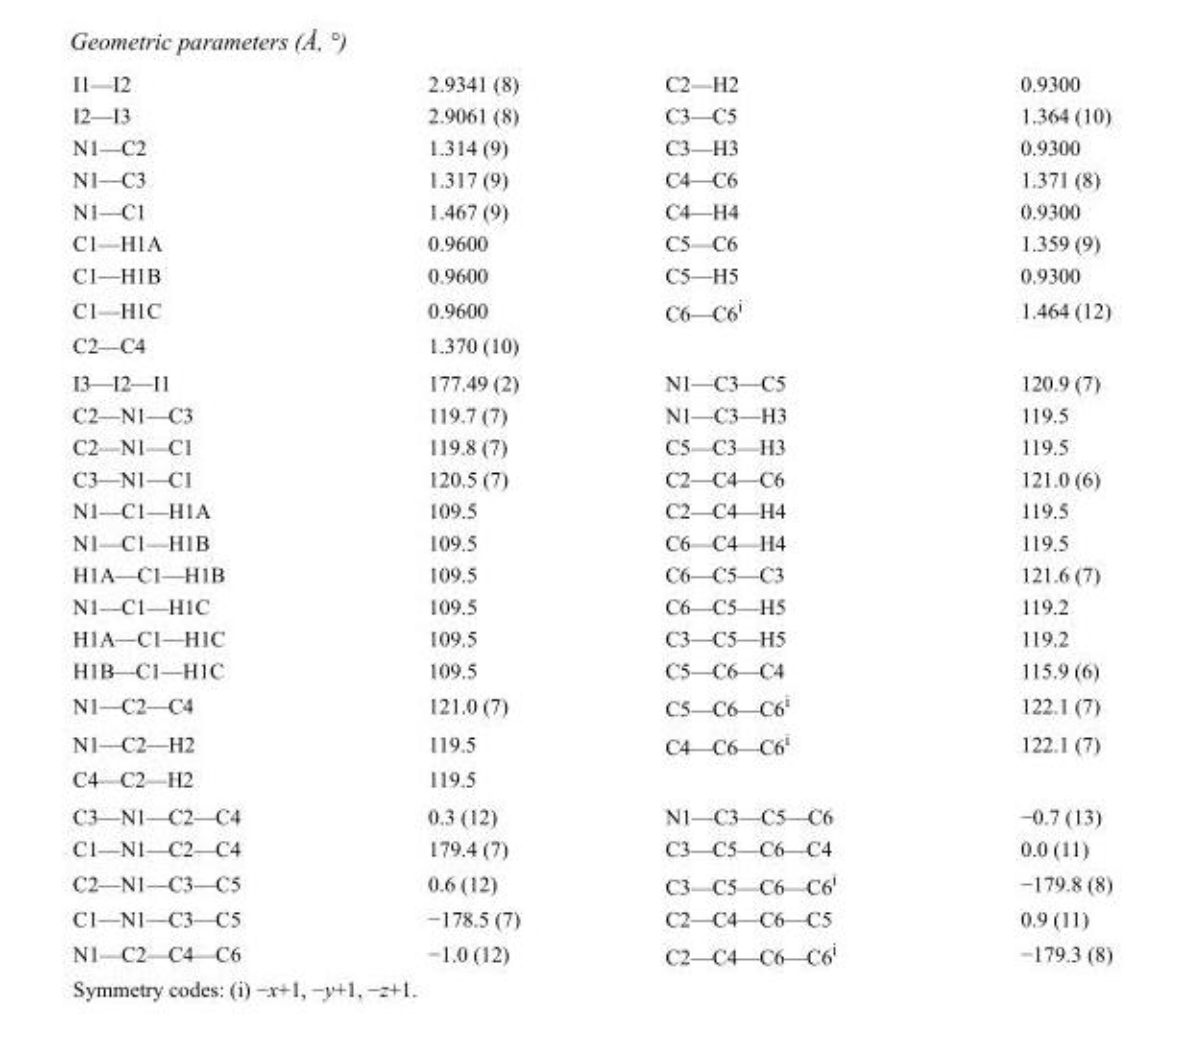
<table><tbody><tr><td>I1—I2</td><td>2.9341 (8)</td><td>C2—H2</td><td>0.9300</td></tr><tr><td>I2—I3</td><td>2.9061 (8)</td><td>C3—C5</td><td>1.364 (10)</td></tr><tr><td>N1—C2</td><td>1.314 (9)</td><td>C3—H3</td><td>0.9300</td></tr><tr><td>N1—C3</td><td>1.317 (9)</td><td>C4—C6</td><td>1.371 (8)</td></tr><tr><td>N1—C1</td><td>1.467 (9)</td><td>C4—H4</td><td>0.9300</td></tr><tr><td>C1—H1A</td><td>0.9600</td><td>C5—C6</td><td>1.359 (9)</td></tr><tr><td>C1—H1B</td><td>0.9600</td><td>C5—H5</td><td>0.9300</td></tr><tr><td>C1—H1C</td><td>0.9600</td><td>C6—C6<sup>i</sup></td><td>1.464 (12)</td></tr><tr><td>C2—C4</td><td>1.370 (10)</td><td></td><td></td></tr><tr><td>I3—I2—I1</td><td>177.49 (2)</td><td>N1—C3—C5</td><td>120.9 (7)</td></tr><tr><td>C2—N1—C3</td><td>119.7 (7)</td><td>N1—C3—H3</td><td>119.5</td></tr><tr><td>C2—N1—C1</td><td>119.8 (7)</td><td>C5—C3—H3</td><td>119.5</td></tr><tr><td>C3—N1—C1</td><td>120.5 (7)</td><td>C2—C4—C6</td><td>121.0 (6)</td></tr><tr><td>N1—C1—H1A</td><td>109.5</td><td>C2—C4—H4</td><td>119.5</td></tr><tr><td>N1—C1—H1B</td><td>109.5</td><td>C6—C4—H4</td><td>119.5</td></tr><tr><td>H1A—C1—H1B</td><td>109.5</td><td>C6—C5—C3</td><td>121.6 (7)</td></tr><tr><td>N1—C1—H1C</td><td>109.5</td><td>C6—C5—H5</td><td>119.2</td></tr><tr><td>H1A—C1—H1C</td><td>109.5</td><td>C3—C5—H5</td><td>119.2</td></tr><tr><td>H1B—C1—H1C</td><td>109.5</td><td>C5—C6—C4</td><td>115.9 (6)</td></tr><tr><td>N1—C2—C4</td><td>121.0 (7)</td><td>C5—C6—C6<sup>i</sup></td><td>122.1 (7)</td></tr><tr><td>N1—C2—H2</td><td>119.5</td><td>C4—C6—C6<sup>i</sup></td><td>122.1 (7)</td></tr><tr><td>C4—C2—H2</td><td>119.5</td><td></td><td></td></tr><tr><td>C3—N1—C2—C4</td><td>0.3 (12)</td><td>N1—C3—C5—C6</td><td>−0.7 (13)</td></tr><tr><td>C1—N1—C2—C4</td><td>179.4 (7)</td><td>C3—C5—C6—C4</td><td>0.0 (11)</td></tr><tr><td>C2—N1—C3—C5</td><td>0.6 (12)</td><td>C3—C5—C6—C6<sup>i</sup></td><td>−179.8 (8)</td></tr><tr><td>C1—N1—C3—C5</td><td>−178.5 (7)</td><td>C2—C4—C6—C5</td><td>0.9 (11)</td></tr><tr><td>N1—C2—C4—C6</td><td>−1.0 (12)</td><td>C2—C4—C6—C6<sup>i</sup></td><td>−179.3 (8)</td></tr></tbody></table>